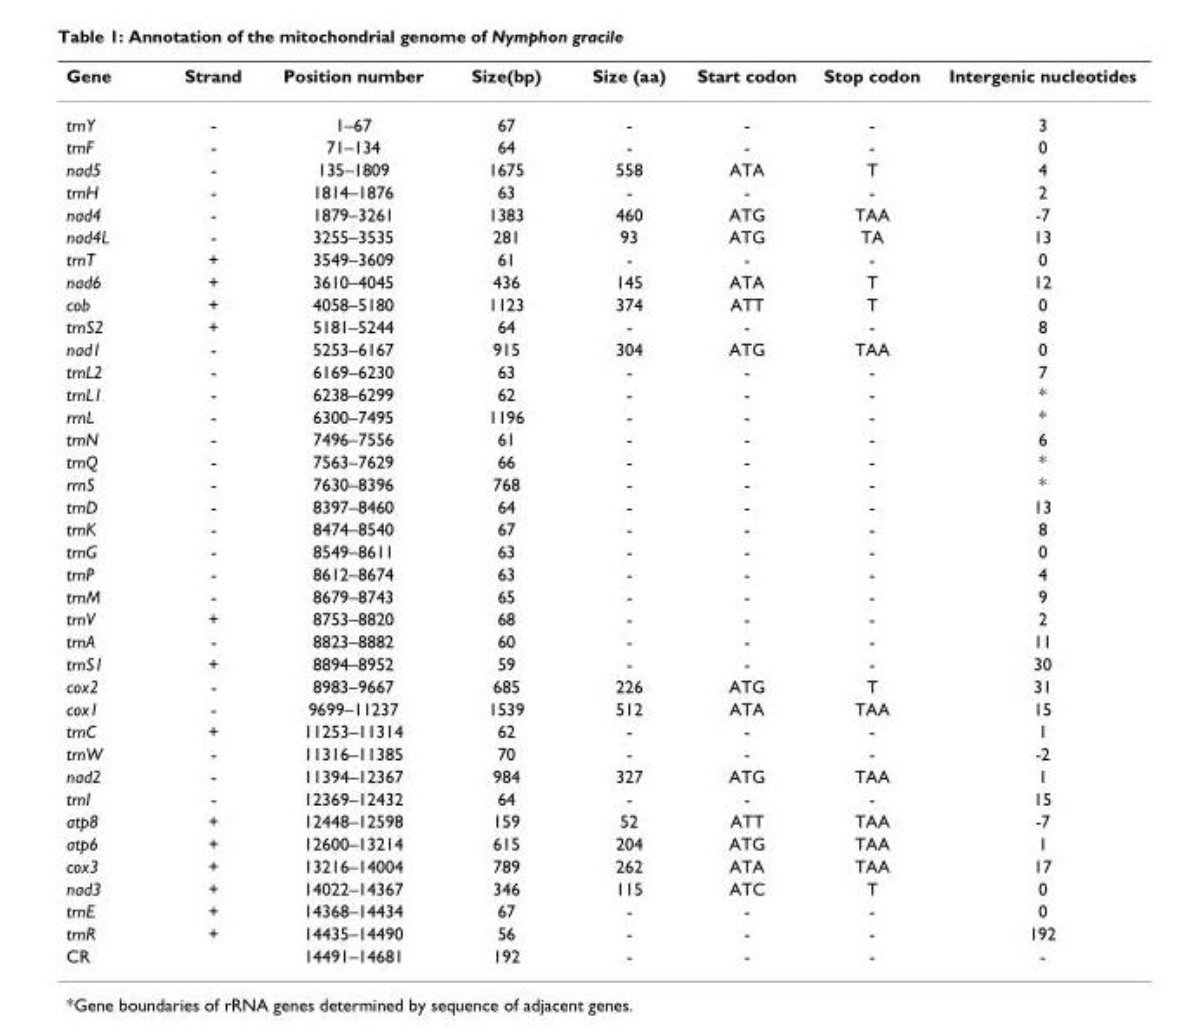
<table><thead><tr><td>Gene</td><td>Strand</td><td>Position number</td><td>Size(bp)</td><td>Size (aa)</td><td>Start codon</td><td>Stop codon</td><td>Intergenic nucleotides</td></tr></thead><tbody><tr><td>trnY</td><td>-</td><td>1–67</td><td>67</td><td>-</td><td>-</td><td>-</td><td>3</td></tr><tr><td>trnF</td><td>-</td><td>71–134</td><td>64</td><td>-</td><td>-</td><td>-</td><td>0</td></tr><tr><td>nad5</td><td>-</td><td>135–1809</td><td>1675</td><td>558</td><td>ATA</td><td>T</td><td>4</td></tr><tr><td>trnH</td><td>-</td><td>1814–1876</td><td>63</td><td>-</td><td>-</td><td>-</td><td>2</td></tr><tr><td>nad4</td><td>-</td><td>1879–3261</td><td>1383</td><td>460</td><td>ATG</td><td>TAA</td><td>-7</td></tr><tr><td>nad4L</td><td>-</td><td>3255–3535</td><td>281</td><td>93</td><td>ATG</td><td>TA</td><td>13</td></tr><tr><td>trnT</td><td>+</td><td>3549–3609</td><td>61</td><td>-</td><td>-</td><td>-</td><td>0</td></tr><tr><td>nad6</td><td>+</td><td>3610–4045</td><td>436</td><td>145</td><td>ATA</td><td>T</td><td>12</td></tr><tr><td>cob</td><td>+</td><td>4058–5180</td><td>1123</td><td>374</td><td>ATT</td><td>T</td><td>0</td></tr><tr><td>trnS2</td><td>+</td><td>5181–5244</td><td>64</td><td>-</td><td>-</td><td>-</td><td>8</td></tr><tr><td>nad1</td><td>-</td><td>5253–6167</td><td>915</td><td>304</td><td>ATG</td><td>TAA</td><td>0</td></tr><tr><td>trnL2</td><td>-</td><td>6169–6230</td><td>63</td><td>-</td><td>-</td><td>-</td><td>7</td></tr><tr><td>trnL1</td><td>-</td><td>6238–6299</td><td>62</td><td>-</td><td>-</td><td>-</td><td>*</td></tr><tr><td>rrnL</td><td>-</td><td>6300–7495</td><td>1196</td><td>-</td><td>-</td><td>-</td><td>*</td></tr><tr><td>trnN</td><td>-</td><td>7496–7556</td><td>61</td><td>-</td><td>-</td><td>-</td><td>6</td></tr><tr><td>trnQ</td><td>-</td><td>7563–7629</td><td>66</td><td>-</td><td>-</td><td>-</td><td>*</td></tr><tr><td>rrnS</td><td>-</td><td>7630–8396</td><td>768</td><td>-</td><td>-</td><td>-</td><td>*</td></tr><tr><td>trnD</td><td>-</td><td>8397–8460</td><td>64</td><td>-</td><td>-</td><td>-</td><td>13</td></tr><tr><td>trnK</td><td>-</td><td>8474–8540</td><td>67</td><td>-</td><td>-</td><td>-</td><td>8</td></tr><tr><td>trnG</td><td>-</td><td>8549–8611</td><td>63</td><td>-</td><td>-</td><td>-</td><td>0</td></tr><tr><td>trnP</td><td>-</td><td>8612–8674</td><td>63</td><td>-</td><td>-</td><td>-</td><td>4</td></tr><tr><td>trnM</td><td>-</td><td>8679–8743</td><td>65</td><td>-</td><td>-</td><td>-</td><td>9</td></tr><tr><td>trnV</td><td>+</td><td>8753–8820</td><td>68</td><td>-</td><td>-</td><td>-</td><td>2</td></tr><tr><td>trnA</td><td>-</td><td>8823–8882</td><td>60</td><td>-</td><td>-</td><td>-</td><td>11</td></tr><tr><td>trnS1</td><td>+</td><td>8894–8952</td><td>59</td><td>-</td><td>-</td><td>-</td><td>30</td></tr><tr><td>cox2</td><td>-</td><td>8983–9667</td><td>685</td><td>226</td><td>ATG</td><td>T</td><td>31</td></tr><tr><td>cox1</td><td>-</td><td>9699–11237</td><td>1539</td><td>512</td><td>ATA</td><td>TAA</td><td>15</td></tr><tr><td>trnC</td><td>+</td><td>11253–11314</td><td>62</td><td>-</td><td>-</td><td>-</td><td>1</td></tr><tr><td>trnW</td><td>-</td><td>11316–11385</td><td>70</td><td>-</td><td>-</td><td>-</td><td>-2</td></tr><tr><td>nad2</td><td>-</td><td>11394–12367</td><td>984</td><td>327</td><td>ATG</td><td>TAA</td><td>1</td></tr><tr><td>trnI</td><td>-</td><td>12369–12432</td><td>64</td><td>-</td><td>-</td><td>-</td><td>15</td></tr><tr><td>atp8</td><td>+</td><td>12448–12598</td><td>159</td><td>52</td><td>ATT</td><td>TAA</td><td>-7</td></tr><tr><td>atp6</td><td>+</td><td>12600–13214</td><td>615</td><td>204</td><td>ATG</td><td>TAA</td><td>1</td></tr><tr><td>cox3</td><td>+</td><td>13216–14004</td><td>789</td><td>262</td><td>ATA</td><td>TAA</td><td>17</td></tr><tr><td>nad3</td><td>+</td><td>14022–14367</td><td>346</td><td>115</td><td>ATC</td><td>T</td><td>0</td></tr><tr><td>trnE</td><td>+</td><td>14368–14434</td><td>67</td><td>-</td><td>-</td><td>-</td><td>0</td></tr><tr><td>trnR</td><td>+</td><td>14435–14490</td><td>56</td><td>-</td><td>-</td><td>-</td><td>192</td></tr><tr><td>CR</td><td></td><td>14491–14681</td><td>192</td><td>-</td><td>-</td><td>-</td><td>-</td></tr></tbody></table>